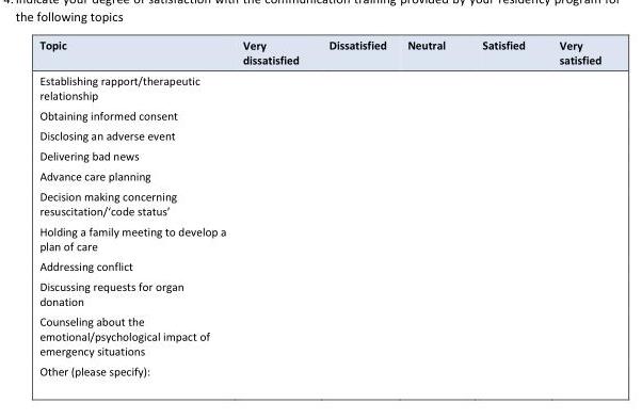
<table><thead><tr><td>Topic</td><td>Very dissatisfied</td><td>Dissatisfied</td><td>Neutral</td><td>Satisfied</td><td>Very satisfied</td></tr></thead><tbody><tr><td colspan="6">Establishing rapport/therapeutic relationship</td></tr><tr><td colspan="6">Obtaining informed consent</td></tr><tr><td colspan="6">Disclosing an adverse event</td></tr><tr><td colspan="6">Delivering bad news</td></tr><tr><td colspan="6">Advance care planning</td></tr><tr><td colspan="6">Decision making concerning resuscitation/‘code status’</td></tr><tr><td colspan="6">Holding a family meeting to develop a plan of care</td></tr><tr><td colspan="6">Addressing conflict</td></tr><tr><td colspan="6">Discussing requests for organ donation</td></tr><tr><td colspan="6">Counseling about the emotional/psychological impact of emergency situations</td></tr><tr><td>Other (please specify):</td><td></td><td></td><td></td><td></td><td></td></tr></tbody></table>